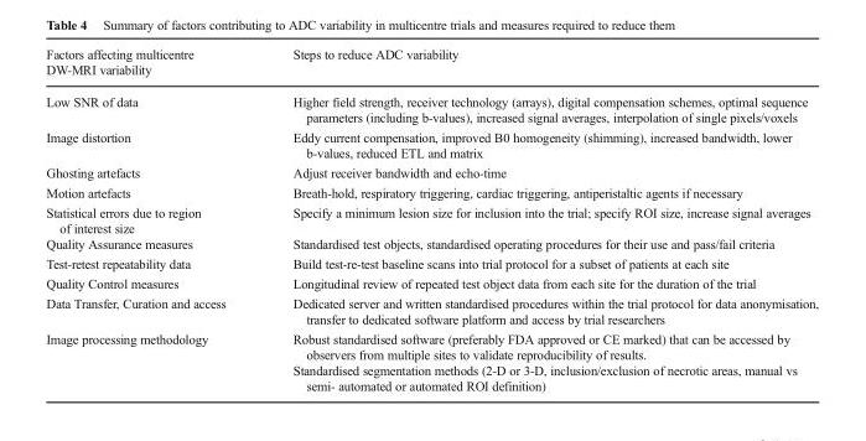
<table><thead><tr><td>Factors affecting multicentre DW-MRI variability</td><td>Steps to reduce ADC variability</td></tr></thead><tbody><tr><td>Low SNR of data</td><td>Higher field strength, receiver technology (arrays), digital compensation schemes, optimal sequence parameters (including b-values), increased signal averages, interpolation of single pixels/voxels</td></tr><tr><td>Image distortion</td><td>Eddy current compensation, improved B0 homogeneity (shimming), increased bandwidth, lower b-values, reduced ETL and matrix</td></tr><tr><td>Ghosting artefacts</td><td>Adjust receiver bandwidth and echo-time</td></tr><tr><td>Motion artefacts</td><td>Breath-hold, respiratory triggering, cardiac triggering, antiperistaltic agents if necessary</td></tr><tr><td>Statistical errors due to region of interest size</td><td>Specify a minimum lesion size for inclusion into the trial; specify ROI size, increase signal averages</td></tr><tr><td>Quality Assurance measures</td><td>Standardised test objects, standardised operating procedures for their use and pass/fail criteria</td></tr><tr><td>Test-retest repeatability data</td><td>Build test-re-test baseline scans into trial protocol for a subset of patients at each site</td></tr><tr><td>Quality Control measures</td><td>Longitudinal review of repeated test object data from each site for the duration of the trial</td></tr><tr><td>Data Transfer, Curation and access</td><td>Dedicated server and written standardised procedures within the trial protocol for data anonymisation, transfer to dedicated software platform and access by trial researchers</td></tr><tr><td>Image processing methodology</td><td>Robust standardised software (preferably FDA approved or CE marked) that can be accessed by observers from multiple sites to validate reproducibility of results. Standardised segmentation methods (2-D or 3-D, inclusion/exclusion of necrotic areas, manual vs semi- automated or automated ROI definition)</td></tr></tbody></table>